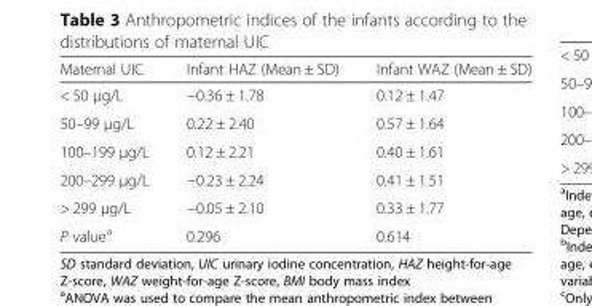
<table><thead><tr><td>Maternal UIC</td><td>Infant HAZ (Mean ± SD)</td><td>Infant WAZ (Mean ± SD)</td></tr></thead><tbody><tr><td>&lt; 50 μg/L</td><td>−0.36 ± 1.78</td><td>0.12 ± 1.47</td></tr><tr><td>50–99 μg/L</td><td>0.22 ± 2.40</td><td>0.57 ± 1.64</td></tr><tr><td>100–199 μg/L</td><td>0.12 ± 2.21</td><td>0.40 ± 1.61</td></tr><tr><td>200–299 μg/L</td><td>−0.23 ± 2.24</td><td>0.41 ± 1.51</td></tr><tr><td>&gt; 299 μg/L</td><td>−0.05 ± 2.10</td><td>0.33 ± 1.77</td></tr><tr><td>P value<sup>a</sup></td><td>0.296</td><td>0.614</td></tr></tbody></table>